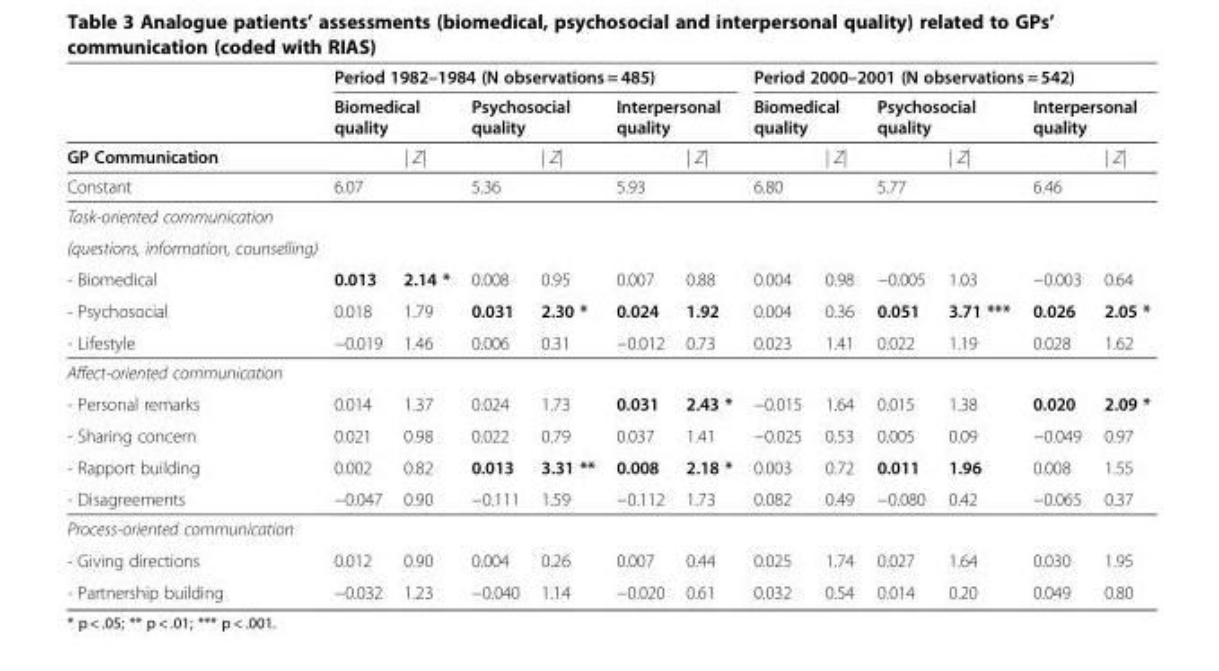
<table><thead><tr><td rowspan="3">GP Communication</td><td colspan="6">Period 1982–1984 (N observations = 485)</td><td colspan="6">Period 2000–2001 (N observations = 542)</td></tr><tr><td colspan="2">Biomedical quality</td><td colspan="2">Psychosocial quality</td><td colspan="2">Interpersonal quality</td><td colspan="2">Biomedical quality</td><td colspan="2">Psychosocial quality</td><td colspan="2">Interpersonal quality</td></tr><tr><td></td><td>| Z|</td><td></td><td>| Z|</td><td></td><td>| Z|</td><td></td><td>| Z|</td><td></td><td>| Z|</td><td></td><td>| Z|</td></tr></thead><tbody><tr><td>Constant</td><td>6.07</td><td></td><td>5.36</td><td></td><td>5.93</td><td></td><td>6.80</td><td></td><td>5.77</td><td></td><td>6.46</td><td></td></tr><tr><td>Task-oriented communication</td><td rowspan="2"></td><td rowspan="2"></td><td rowspan="2"></td><td rowspan="2"></td><td rowspan="2"></td><td rowspan="2"></td><td rowspan="2"></td><td rowspan="2"></td><td rowspan="2"></td><td rowspan="2"></td><td rowspan="2"></td><td rowspan="2"></td></tr><tr><td>(questions, information, counselling)</td></tr><tr><td>- Biomedical</td><td>0.013</td><td>2.14 *</td><td>0.008</td><td>0.95</td><td>0.007</td><td>0.88</td><td>0.004</td><td>0.98</td><td>−0.005</td><td>1.03</td><td>−0.003</td><td>0.64</td></tr><tr><td>- Psychosocial</td><td>0.018</td><td>1.79</td><td>0.031</td><td>2.30 *</td><td>0.024</td><td>1.92</td><td>0.004</td><td>0.36</td><td>0.051</td><td>3.71 ***</td><td>0.026</td><td>2.05 *</td></tr><tr><td>- Lifestyle</td><td>−0.019</td><td>1.46</td><td>0.006</td><td>0.31</td><td>−0.012</td><td>0.73</td><td>0.023</td><td>1.41</td><td>0.022</td><td>1.19</td><td>0.028</td><td>1.62</td></tr><tr><td colspan="13">Affect-oriented communication</td></tr><tr><td>- Personal remarks</td><td>0.014</td><td>1.37</td><td>0.024</td><td>1.73</td><td>0.031</td><td>2.43 *</td><td>−0.015</td><td>1.64</td><td>0.015</td><td>1.38</td><td>0.020</td><td>2.09 *</td></tr><tr><td>- Sharing concern</td><td>0.021</td><td>0.98</td><td>0.022</td><td>0.79</td><td>0.037</td><td>1.41</td><td>−0.025</td><td>0.53</td><td>0.005</td><td>0.09</td><td>−0.049</td><td>0.97</td></tr><tr><td>- Rapport building</td><td>0.002</td><td>0.82</td><td>0.013</td><td>3.31 **</td><td>0.008</td><td>2.18 *</td><td>0.003</td><td>0.72</td><td>0.011</td><td>1.96</td><td>0.008</td><td>1.55</td></tr><tr><td>- Disagreements</td><td>−0.047</td><td>0.90</td><td>−0.111</td><td>1.59</td><td>−0.112</td><td>1.73</td><td>0.082</td><td>0.49</td><td>−0.080</td><td>0.42</td><td>−0.065</td><td>0.37</td></tr><tr><td colspan="13">Process-oriented communication</td></tr><tr><td>- Giving directions</td><td>0.012</td><td>0.90</td><td>0.004</td><td>0.26</td><td>0.007</td><td>0.44</td><td>0.025</td><td>1.74</td><td>0.027</td><td>1.64</td><td>0.030</td><td>1.95</td></tr><tr><td>- Partnership building</td><td>−0.032</td><td>1.23</td><td>−0.040</td><td>1.14</td><td>−0.020</td><td>0.61</td><td>0.032</td><td>0.54</td><td>0.014</td><td>0.20</td><td>0.049</td><td>0.80</td></tr></tbody></table>